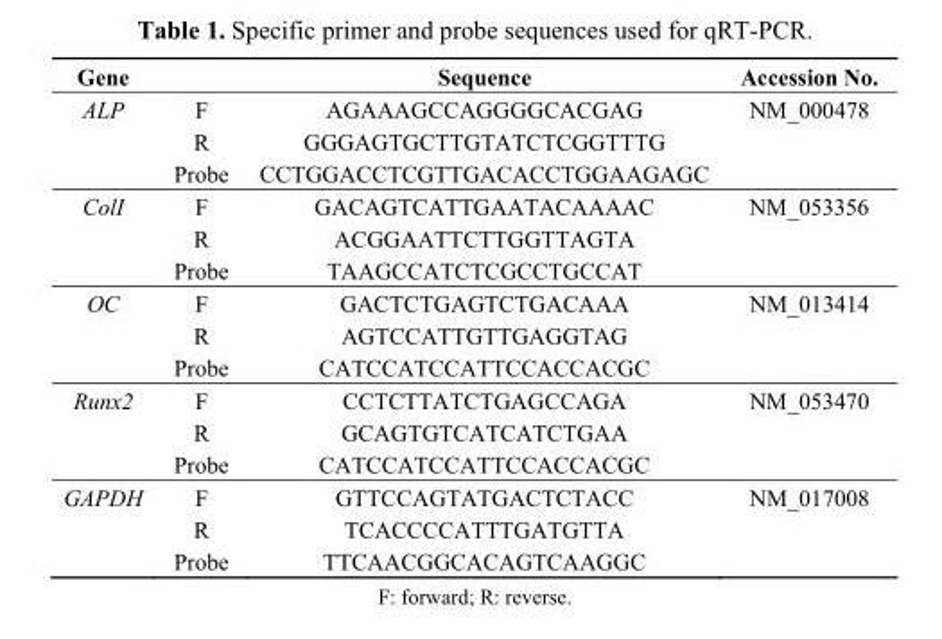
<table><thead><tr><td>Gene</td><td></td><td>Sequence</td><td>Accession No.</td></tr></thead><tbody><tr><td rowspan="3">ALP</td><td>F</td><td>AGAAAGCCAGGGGCACGAG</td><td>NM_000478</td></tr><tr><td>R</td><td>GGGAGTGCTTGTATCTCGGTTTG</td><td></td></tr><tr><td>Probe</td><td>CCTGGACCTCGTTGACACCTGGAAGAGC</td><td></td></tr><tr><td rowspan="3">ColI</td><td>F</td><td>GACAGTCATTGAATACAAAAC</td><td>NM_053356</td></tr><tr><td>R</td><td>ACGGAATTCTTGGTTAGTA</td><td></td></tr><tr><td>Probe</td><td>TAAGCCATCTCGCCTGCCAT</td><td></td></tr><tr><td rowspan="3">OC</td><td>F</td><td>GACTCTGAGTCTGACAAA</td><td>NM_013414</td></tr><tr><td>R</td><td>AGTCCATTGTTGAGGTAG</td><td></td></tr><tr><td>Probe</td><td>CATCCATCCATTCCACCACGC</td><td></td></tr><tr><td rowspan="3">Runx2</td><td>F</td><td>CCTCTTATCTGAGCCAGA</td><td>NM_053470</td></tr><tr><td>R</td><td>GCAGTGTCATCATCTGAA</td><td></td></tr><tr><td>Probe</td><td>CATCCATCCATTCCACCACGC</td><td></td></tr><tr><td rowspan="3">GAPDH</td><td>F</td><td>GTTCCAGTATGACTCTACC</td><td>NM_017008</td></tr><tr><td>R</td><td>TCACCCCATTTGATGTTA</td><td></td></tr><tr><td>Probe</td><td>TTCAACGGCACAGTCAAGGC</td><td></td></tr></tbody></table>